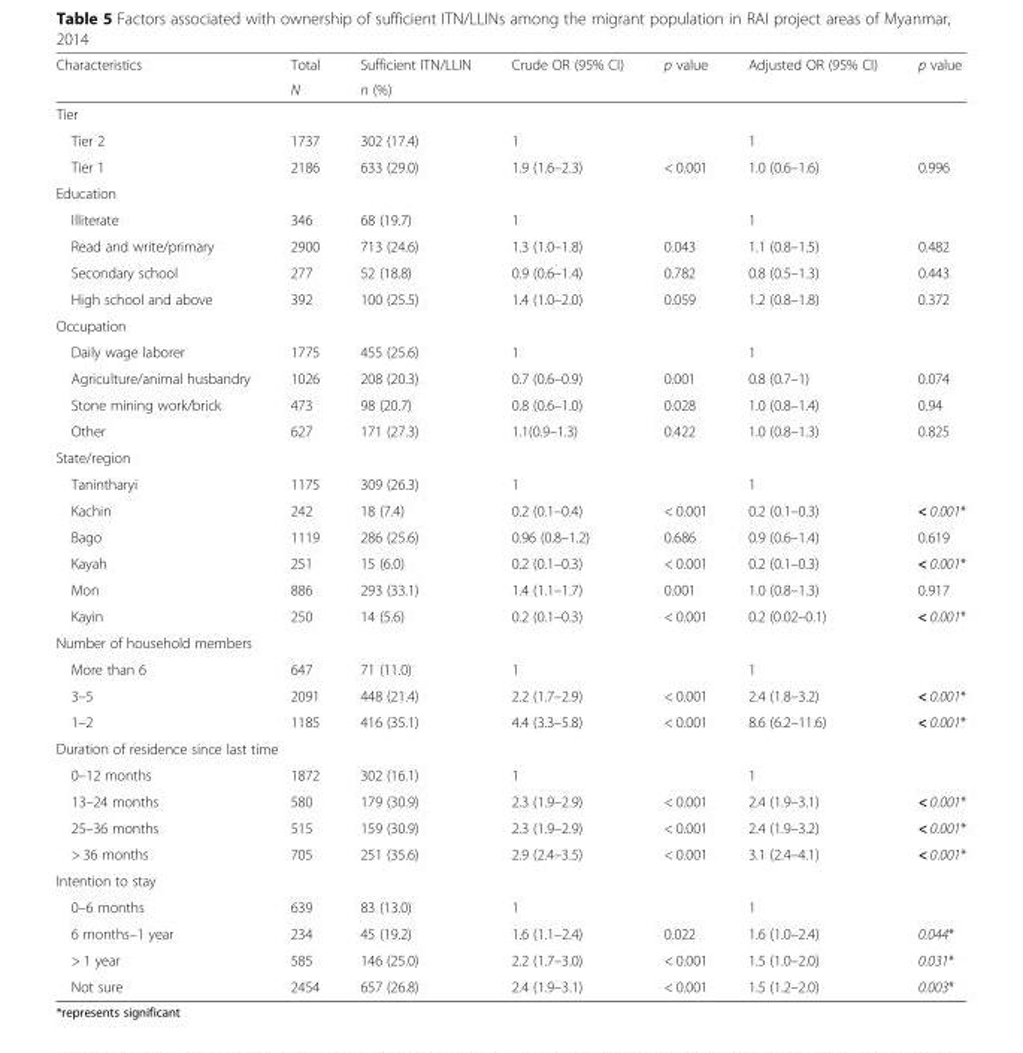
<table><thead><tr><td rowspan="2">Characteristics</td><td rowspan="2">Total N</td><td rowspan="2">Sufficient ITN/LLIN n (%)</td><td rowspan="2">Crude OR (95% CI)</td><td rowspan="2">p value</td><td rowspan="2">Adjusted OR (95% CI)</td><td rowspan="2">p value</td></tr><tr></tr></thead><tbody><tr><td colspan="7">Tier</td></tr><tr><td>Tier 2</td><td>1737</td><td>302 (17.4)</td><td>1</td><td></td><td>1</td><td></td></tr><tr><td>Tier 1</td><td>2186</td><td>633 (29.0)</td><td>1.9 (1.6–2.3)</td><td>&lt; 0.001</td><td>1.0 (0.6–1.6)</td><td>0.996</td></tr><tr><td colspan="7">Education</td></tr><tr><td>Illiterate</td><td>346</td><td>68 (19.7)</td><td>1</td><td></td><td>1</td><td></td></tr><tr><td>Read and write/primary</td><td>2900</td><td>713 (24.6)</td><td>1.3 (1.0–1.8)</td><td>0.043</td><td>1.1 (0.8–1.5)</td><td>0.482</td></tr><tr><td>Secondary school</td><td>277</td><td>52 (18.8)</td><td>0.9 (0.6–1.4)</td><td>0.782</td><td>0.8 (0.5–1.3)</td><td>0.443</td></tr><tr><td>High school and above</td><td>392</td><td>100 (25.5)</td><td>1.4 (1.0–2.0)</td><td>0.059</td><td>1.2 (0.8–1.8)</td><td>0.372</td></tr><tr><td colspan="7">Occupation</td></tr><tr><td>Daily wage laborer</td><td>1775</td><td>455 (25.6)</td><td>1</td><td></td><td>1</td><td></td></tr><tr><td>Agriculture/animal husbandry</td><td>1026</td><td>208 (20.3)</td><td>0.7 (0.6–0.9)</td><td>0.001</td><td>0.8 (0.7–1)</td><td>0.074</td></tr><tr><td>Stone mining work/brick</td><td>473</td><td>98 (20.7)</td><td>0.8 (0.6–1.0)</td><td>0.028</td><td>1.0 (0.8–1.4)</td><td>0.94</td></tr><tr><td>Other</td><td>627</td><td>171 (27.3)</td><td>1.1(0.9–1.3)</td><td>0.422</td><td>1.0 (0.8–1.3)</td><td>0.825</td></tr><tr><td colspan="7">State/region</td></tr><tr><td>Tanintharyi</td><td>1175</td><td>309 (26.3)</td><td>1</td><td></td><td>1</td><td></td></tr><tr><td>Kachin</td><td>242</td><td>18 (7.4)</td><td>0.2 (0.1–0.4)</td><td>&lt; 0.001</td><td>0.2 (0.1–0.3)</td><td>&lt; 0.001*</td></tr><tr><td>Bago</td><td>1119</td><td>286 (25.6)</td><td>0.96 (0.8–1.2)</td><td>0.686</td><td>0.9 (0.6–1.4)</td><td>0.619</td></tr><tr><td>Kayah</td><td>251</td><td>15 (6.0)</td><td>0.2 (0.1–0.3)</td><td>&lt; 0.001</td><td>0.2 (0.1–0.3)</td><td>&lt; 0.001*</td></tr><tr><td>Mon</td><td>886</td><td>293 (33.1)</td><td>1.4 (1.1–1.7)</td><td>0.001</td><td>1.0 (0.8–1.3)</td><td>0.917</td></tr><tr><td>Kayin</td><td>250</td><td>14 (5.6)</td><td>0.2 (0.1–0.3)</td><td>&lt; 0.001</td><td>0.2 (0.02–0.1)</td><td>&lt; 0.001*</td></tr><tr><td colspan="7">Number of household members</td></tr><tr><td>More than 6</td><td>647</td><td>71 (11.0)</td><td>1</td><td></td><td>1</td><td></td></tr><tr><td>3–5</td><td>2091</td><td>448 (21.4)</td><td>2.2 (1.7–2.9)</td><td>&lt; 0.001</td><td>2.4 (1.8–3.2)</td><td>&lt; 0.001*</td></tr><tr><td>1–2</td><td>1185</td><td>416 (35.1)</td><td>4.4 (3.3–5.8)</td><td>&lt; 0.001</td><td>8.6 (6.2–11.6)</td><td>&lt; 0.001*</td></tr><tr><td colspan="7">Duration of residence since last time</td></tr><tr><td>0–12 months</td><td>1872</td><td>302 (16.1)</td><td>1</td><td></td><td>1</td><td></td></tr><tr><td>13–24 months</td><td>580</td><td>179 (30.9)</td><td>2.3 (1.9–2.9)</td><td>&lt; 0.001</td><td>2.4 (1.9–3.1)</td><td>&lt; 0.001*</td></tr><tr><td>25–36 months</td><td>515</td><td>159 (30.9)</td><td>2.3 (1.9–2.9)</td><td>&lt; 0.001</td><td>2.4 (1.9–3.2)</td><td>&lt; 0.001*</td></tr><tr><td>&gt; 36 months</td><td>705</td><td>251 (35.6)</td><td>2.9 (2.4–3.5)</td><td>&lt; 0.001</td><td>3.1 (2.4–4.1)</td><td>&lt; 0.001*</td></tr><tr><td colspan="7">Intention to stay</td></tr><tr><td>0–6 months</td><td>639</td><td>83 (13.0)</td><td>1</td><td></td><td>1</td><td></td></tr><tr><td>6 months–1 year</td><td>234</td><td>45 (19.2)</td><td>1.6 (1.1–2.4)</td><td>0.022</td><td>1.6 (1.0–2.4)</td><td>0.044*</td></tr><tr><td>&gt; 1 year</td><td>585</td><td>146 (25.0)</td><td>2.2 (1.7–3.0)</td><td>&lt; 0.001</td><td>1.5 (1.0–2.0)</td><td>0.031*</td></tr><tr><td>Not sure</td><td>2454</td><td>657 (26.8)</td><td>2.4 (1.9–3.1)</td><td>&lt; 0.001</td><td>1.5 (1.2–2.0)</td><td>0.003*</td></tr></tbody></table>